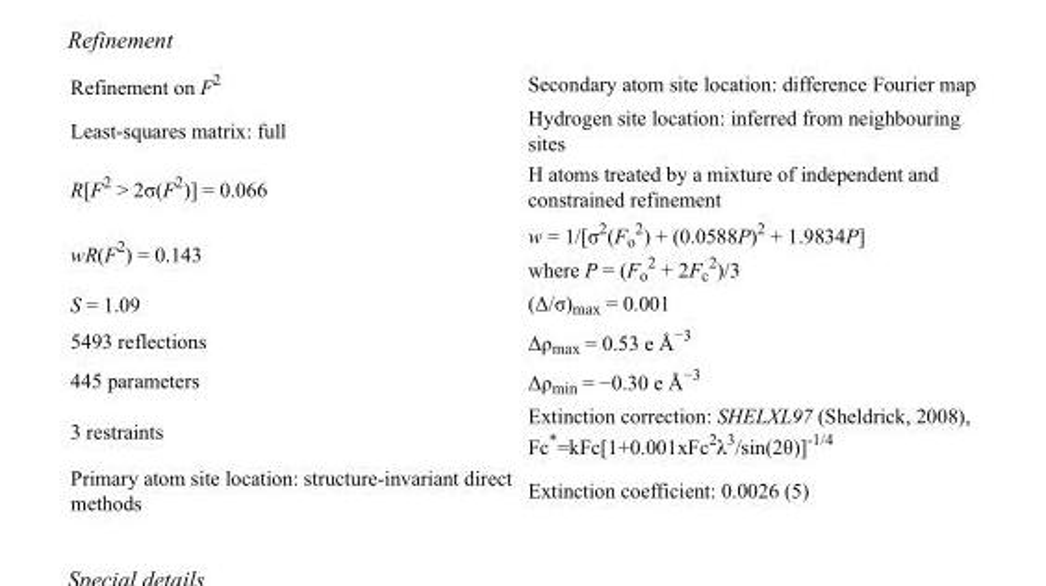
<table><tbody><tr><td>Refinement on F<sup>2</sup></td><td>Secondary atom site location: difference Fourier map</td></tr><tr><td>Least-squares matrix: full</td><td>Hydrogen site location: inferred from neighbouring sites</td></tr><tr><td>R[F<sup>2</sup> &gt; 2σ(F<sup>2</sup>)] = 0.066</td><td>H atoms treated by a mixture of independent and constrained refinement</td></tr><tr><td>wR(F<sup>2</sup>) = 0.143</td><td>w = 1/[σ<sup>2</sup>(F<sub>o</sub> <sup>2</sup>) + (0.0588P)<sup>2</sup> + 1.9834P] where P = (F<sub>o</sub> <sup>2</sup> + 2F<sub>c</sub> <sup>2</sup>)/3</td></tr><tr><td>S = 1.09</td><td>(Δ/σ)<sub>max</sub> = 0.001</td></tr><tr><td>5493 reflections</td><td>Δρ<sub>max</sub> = 0.53 e Å<sup>−3</sup></td></tr><tr><td>445 parameters</td><td>Δρ<sub>min</sub> = −0.30 e Å<sup>−3</sup></td></tr><tr><td>3 restraints</td><td>Extinction correction: SHELXL97 (Sheldrick, 2008), Fc*=kFc[1+0.001xFc<sup>2</sup>λ<sup>3</sup>/sin(2θ)]<sup>-1/4</sup></td></tr><tr><td>Primary atom site location: structure-invariant direct methods</td><td>Extinction coefficient: 0.0026 (5)</td></tr></tbody></table>